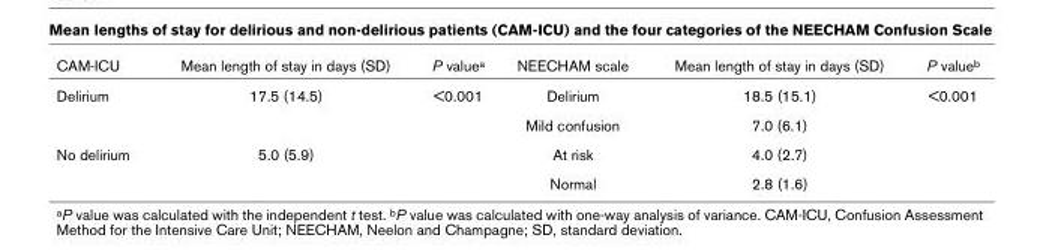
<table><thead><tr><td>CAM-ICU</td><td>Mean length of stay in days (SD)</td><td>P value<sup>a</sup></td><td>NEECHAM scale</td><td>Mean length of stay in days (SD)</td><td>P value<sup>b</sup></td></tr></thead><tbody><tr><td rowspan="2">Delirium</td><td>17.5 (14.5)</td><td>&lt;0.001</td><td>Delirium</td><td>18.5 (15.1)</td><td>&lt;0.001</td></tr><tr><td></td><td></td><td>Mild confusion</td><td>7.0 (6.1)</td><td></td></tr><tr><td rowspan="2">No delirium</td><td>5.0 (5.9)</td><td></td><td>At risk</td><td>4.0 (2.7)</td><td></td></tr><tr><td></td><td></td><td>Normal</td><td>2.8 (1.6)</td><td></td></tr></tbody></table>